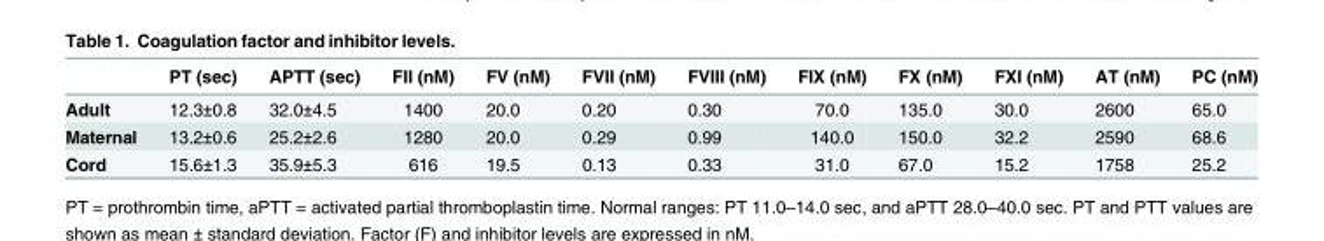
<table><thead><tr><td></td><td>PT (sec)</td><td>APTT (sec)</td><td>FII (nM)</td><td>FV (nM)</td><td>FVII (nM)</td><td>FVIII (nM)</td><td>FIX (nM)</td><td>FX (nM)</td><td>FXI (nM)</td><td>AT (nM)</td><td>PC (nM)</td></tr></thead><tbody><tr><td>Adult</td><td>12.3±0.8</td><td>32.0±4.5</td><td>1400</td><td>20.0</td><td>0.20</td><td>0.30</td><td>70.0</td><td>135.0</td><td>30.0</td><td>2600</td><td>65.0</td></tr><tr><td>Maternal</td><td>13.2±0.6</td><td>25.2±2.6</td><td>1280</td><td>20.0</td><td>0.29</td><td>0.99</td><td>140.0</td><td>150.0</td><td>32.2</td><td>2590</td><td>68.6</td></tr><tr><td>Cord</td><td>15.6±1.3</td><td>35.9±5.3</td><td>616</td><td>19.5</td><td>0.13</td><td>0.33</td><td>31.0</td><td>67.0</td><td>15.2</td><td>1758</td><td>25.2</td></tr></tbody></table>